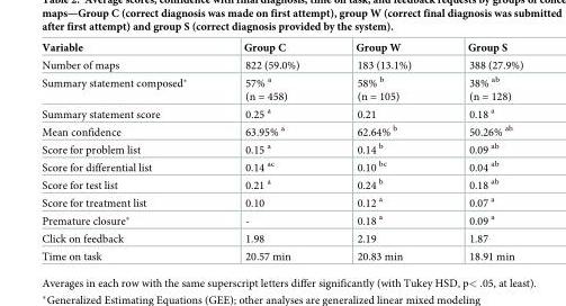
<table><thead><tr><td>Variable</td><td>Group C</td><td>Group W</td><td>Group S</td></tr></thead><tbody><tr><td>Number of maps</td><td>822 (59.0%)</td><td>183 (13.1%)</td><td>388 (27.9%)</td></tr><tr><td>Summary statement composed*</td><td>57% <sup>a</sup> (n = 458)</td><td>58% <sup>b</sup> (n = 105)</td><td>38% <sup>ab</sup> (n = 128)</td></tr><tr><td>Summary statement score</td><td>0.25 <sup>a</sup></td><td>0.21</td><td>0.18 <sup>a</sup></td></tr><tr><td>Mean confidence</td><td>63.95% <sup>a</sup></td><td>62.64% <sup>b</sup></td><td>50.26% <sup>ab</sup></td></tr><tr><td>Score for problem list</td><td>0.15 <sup>a</sup></td><td>0.14 <sup>b</sup></td><td>0.09 <sup>ab</sup></td></tr><tr><td>Score for differential list</td><td>0.14 <sup>ac</sup></td><td>0.10 <sup>bc</sup></td><td>0.04 <sup>ab</sup></td></tr><tr><td>Score for test list</td><td>0.21 <sup>a</sup></td><td>0.24 <sup>b</sup></td><td>0.18 <sup>ab</sup></td></tr><tr><td>Score for treatment list</td><td>0.10</td><td>0.12 <sup>a</sup></td><td>0.07 <sup>a</sup></td></tr><tr><td>Premature closure*</td><td>-</td><td>0.18 <sup>a</sup></td><td>0.09 <sup>a</sup></td></tr><tr><td>Click on feedback</td><td>1.98</td><td>2.19</td><td>1.87</td></tr><tr><td>Time on task</td><td>20.57 min</td><td>20.83 min</td><td>18.91 min</td></tr></tbody></table>